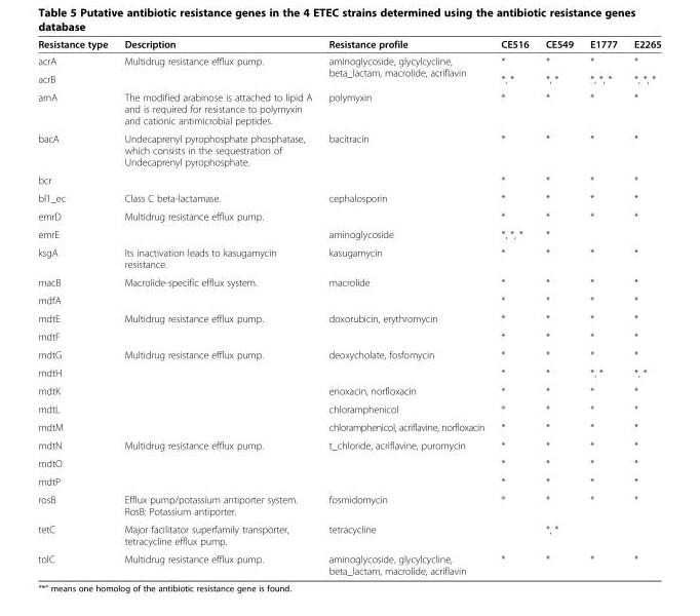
<table><thead><tr><td>Resistance type</td><td>Description</td><td>Resistance profile</td><td>CE516</td><td>CE549</td><td>E1777</td><td>E2265</td></tr></thead><tbody><tr><td>acrA</td><td rowspan="2">Multidrug resistance efflux pump.</td><td rowspan="2">aminoglycoside, glycylcycline, beta_lactam, macrolide, acriflavin</td><td>*</td><td>*</td><td>*</td><td>*</td></tr><tr><td>acrB</td><td>*, *</td><td>*, *</td><td>*, *, *</td><td>*, *, *</td></tr><tr><td>arnA</td><td>The modified arabinose is attached to lipid A and is required for resistance to polymyxin and cationic antimicrobial peptides.</td><td>polymyxin</td><td>*</td><td>*</td><td>*</td><td>*</td></tr><tr><td>bacA</td><td>Undecaprenyl pyrophosphate phosphatase, which consists in the sequestration of Undecaprenyl pyrophosphate.</td><td>bacitracin</td><td>*</td><td>*</td><td>*</td><td>*</td></tr><tr><td>bcr</td><td></td><td></td><td>*</td><td>*</td><td>*</td><td>*</td></tr><tr><td>bl1_ec</td><td>Class C beta-lactamase.</td><td>cephalosporin</td><td>*</td><td>*</td><td>*</td><td>*</td></tr><tr><td>emrD</td><td rowspan="2">Multidrug resistance efflux pump.</td><td></td><td>*</td><td>*</td><td>*</td><td>*</td></tr><tr><td>emrE</td><td>aminoglycoside</td><td>*, *, *</td><td>*</td><td></td><td></td></tr><tr><td>ksgA</td><td>Its inactivation leads to kasugamycin resistance.</td><td>kasugamycin</td><td>*</td><td>*</td><td>*</td><td>*</td></tr><tr><td>macB</td><td>Macrolide-specific efflux system.</td><td>macrolide</td><td>*</td><td>*</td><td>*</td><td>*</td></tr><tr><td>mdfA</td><td></td><td></td><td>*</td><td>*</td><td>*</td><td>*</td></tr><tr><td>mdtE</td><td rowspan="2">Multidrug resistance efflux pump.</td><td rowspan="2">doxorubicin, erythromycin</td><td>*</td><td>*</td><td>*</td><td>*</td></tr><tr><td>mdtF</td><td>*</td><td>*</td><td>*</td><td>*</td></tr><tr><td>mdtG</td><td rowspan="5">Multidrug resistance efflux pump.</td><td rowspan="2">deoxycholate, fosfomycin</td><td>*</td><td>*</td><td>*</td><td>*</td></tr><tr><td>mdtH</td><td>*</td><td>*</td><td>*, *</td><td>*, *</td></tr><tr><td>mdtK</td><td>enoxacin, norfloxacin</td><td>*</td><td>*</td><td>*</td><td>*</td></tr><tr><td>mdtL</td><td>chloramphenicol</td><td>*</td><td>*</td><td>*</td><td>*</td></tr><tr><td>mdtM</td><td>chloramphenicol, acriflavine, norfloxacin</td><td>*</td><td>*</td><td>*</td><td>*</td></tr><tr><td>mdtN</td><td rowspan="3">Multidrug resistance efflux pump.</td><td rowspan="3">t_chloride, acriflavine, puromycin</td><td>*</td><td>*</td><td>*</td><td>*</td></tr><tr><td>mdtO</td><td>*</td><td>*</td><td>*</td><td>*</td></tr><tr><td>mdtP</td><td>*</td><td>*</td><td>*</td><td>*</td></tr><tr><td>rosB</td><td>Efflux pump/potassium antiporter system. RosB: Potassium antiporter.</td><td>fosmidomycin</td><td>*</td><td>*</td><td>*</td><td>*</td></tr><tr><td>tetC</td><td>Major facilitator superfamily transporter, tetracycline efflux pump.</td><td>tetracycline</td><td></td><td>*, *</td><td></td><td></td></tr><tr><td>tolC</td><td>Multidrug resistance efflux pump.</td><td>aminoglycoside, glycylcycline, beta_lactam, macrolide, acriflavin</td><td>*</td><td>*</td><td>*</td><td>*</td></tr></tbody></table>